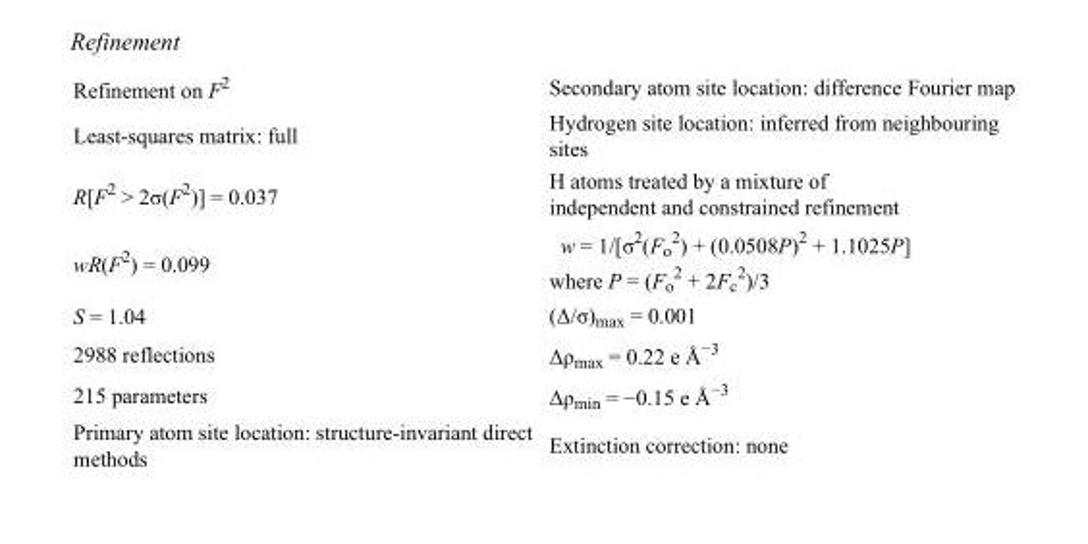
<table><tbody><tr><td>Refinement on F<sup>2</sup></td><td>Secondary atom site location: difference Fourier map</td></tr><tr><td>Least-squares matrix: full</td><td>Hydrogen site location: inferred from neighbouring sites</td></tr><tr><td>R[F<sup>2</sup> &gt; 2σ(F<sup>2</sup>)] = 0.037</td><td>H atoms treated by a mixture of independent and constrained refinement</td></tr><tr><td>wR(F<sup>2</sup>) = 0.099</td><td>w = 1/[σ<sup>2</sup>(F<sub>o</sub> <sup>2</sup>) + (0.0508P)<sup>2</sup> + 1.1025P] where P = (F<sub>o</sub> <sup>2</sup> + 2F<sub>c</sub> <sup>2</sup>)/3</td></tr><tr><td>S = 1.04</td><td>(Δ/σ)<sub>max</sub> = 0.001</td></tr><tr><td>2988 reflections</td><td>Δρ<sub>max</sub> = 0.22 e Å<sup>−3</sup></td></tr><tr><td>215 parameters</td><td>Δρ<sub>min</sub> = −0.15 e Å<sup>−3</sup></td></tr><tr><td>Primary atom site location: structure-invariant direct methods</td><td>Extinction correction: none</td></tr></tbody></table>